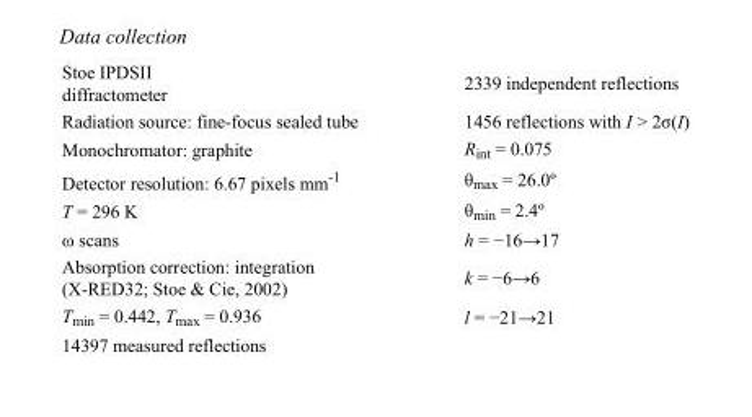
<table><tbody><tr><td>Stoe IPDSII diffractometer</td><td>2339 independent reflections</td></tr><tr><td>Radiation source: fine-focus sealed tube</td><td>1456 reflections with I &gt; 2σ(I)</td></tr><tr><td>Monochromator: graphite</td><td>R<sub>int</sub> = 0.075</td></tr><tr><td>Detector resolution: 6.67 pixels mm<sup>-1</sup></td><td>θ<sub>max</sub> = 26.0º</td></tr><tr><td>T = 296 K</td><td>θ<sub>min</sub> = 2.4º</td></tr><tr><td>ω scans</td><td>h = −16→17</td></tr><tr><td>Absorption correction: integration (X-RED32; Stoe &amp; Cie, 2002)</td><td>k = −6→6</td></tr><tr><td>T<sub>min</sub> = 0.442, T<sub>max</sub> = 0.936</td><td>l = −21→21</td></tr><tr><td>14397 measured reflections</td><td></td></tr></tbody></table>